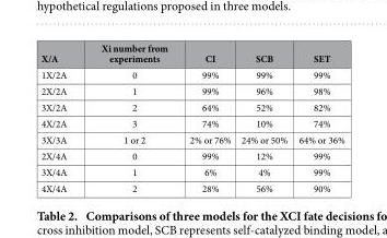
<table><thead><tr><td>X/A</td><td>Xi number from experiments</td><td>CI</td><td>SCB</td><td>SET</td></tr></thead><tbody><tr><td>1X/2A</td><td>0</td><td>99%</td><td>99%</td><td>99%</td></tr><tr><td>2X/2A</td><td>1</td><td>99%</td><td>96%</td><td>98%</td></tr><tr><td>3X/2A</td><td>2</td><td>64%</td><td>52%</td><td>82%</td></tr><tr><td>4X/2A</td><td>3</td><td>74%</td><td>10%</td><td>74%</td></tr><tr><td>3X/3A</td><td>1 or 2</td><td>2% or 76%</td><td>24% or 50%</td><td>64% or 36%</td></tr><tr><td>2X/4A</td><td>0</td><td>99%</td><td>12%</td><td>99%</td></tr><tr><td>3X/4A</td><td>1</td><td>6%</td><td>4%</td><td>99%</td></tr><tr><td>4X/4A</td><td>2</td><td>28%</td><td>56%</td><td>90%</td></tr></tbody></table>